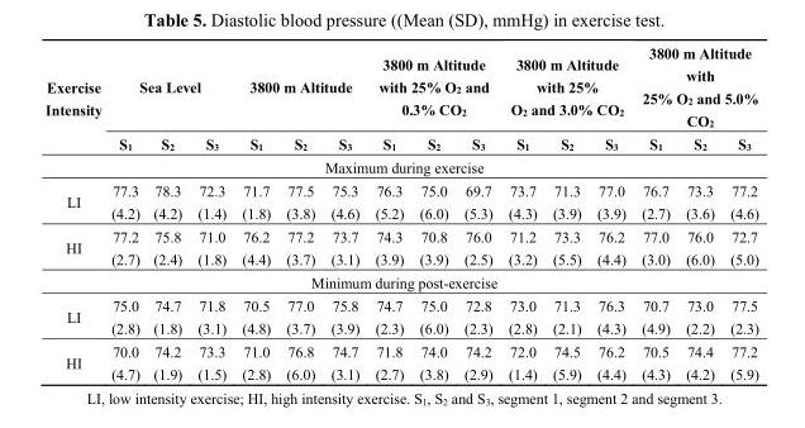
<table><thead><tr><td rowspan="2">Exercise Intensity</td><td colspan="3">Sea Level</td><td colspan="3">3800 m Altitude</td><td colspan="3">3800 m Altitude with 25% O<sub>2</sub> and 0.3% CO<sub>2</sub></td><td colspan="3">3800 m Altitude with 25% O<sub>2</sub> and 3.0% CO<sub>2</sub></td><td colspan="3">3800 m Altitude with 25% O<sub>2</sub> and 5.0% CO<sub>2</sub></td></tr><tr><td>S<sub>1</sub></td><td>S<sub>2</sub></td><td>S<sub>3</sub></td><td>S<sub>1</sub></td><td>S<sub>2</sub></td><td>S<sub>3</sub></td><td>S<sub>1</sub></td><td>S<sub>2</sub></td><td>S<sub>3</sub></td><td>S<sub>1</sub></td><td>S<sub>2</sub></td><td>S<sub>3</sub></td><td>S<sub>1</sub></td><td>S<sub>2</sub></td><td>S<sub>3</sub></td></tr></thead><tbody><tr><td colspan="16">Maximum during exercise</td></tr><tr><td>LI</td><td>77.3 (4.2)</td><td>78.3 (4.2)</td><td>72.3 (1.4)</td><td>71.7 (1.8)</td><td>77.5 (3.8)</td><td>75.3 (4.6)</td><td>76.3 (5.2)</td><td>75.0 (6.0)</td><td>69.7 (5.3)</td><td>73.7 (4.3)</td><td>71.3 (3.9)</td><td>77.0 (3.9)</td><td>76.7 (2.7)</td><td>73.3 (3.6)</td><td>77.2 (4.6)</td></tr><tr><td>HI</td><td>77.2 (2.7)</td><td>75.8 (2.4)</td><td>71.0 (1.8)</td><td>76.2 (4.4)</td><td>77.2 (3.7)</td><td>73.7 (3.1)</td><td>74.3 (3.9)</td><td>70.8 (3.9)</td><td>76.0 (2.5)</td><td>71.2 (3.2)</td><td>73.3 (5.5)</td><td>76.2 (4.4)</td><td>77.0 (3.0)</td><td>76.0 (6.0)</td><td>72.7 (5.0)</td></tr><tr><td colspan="16">Minimum during post-exercise</td></tr><tr><td>LI</td><td>75.0 (2.8)</td><td>74.7 (1.8)</td><td>71.8 (3.1)</td><td>70.5 (4.8)</td><td>77.0 (3.7)</td><td>75.8 (3.9)</td><td>74.7 (2.3)</td><td>75.0 (6.0)</td><td>72.8 (2.3)</td><td>73.0 (2.8)</td><td>71.3 (2.1)</td><td>76.3 (4.3)</td><td>70.7 (4.9)</td><td>73.0 (2.2)</td><td>77.5 (2.3)</td></tr><tr><td>HI</td><td>70.0 (4.7)</td><td>74.2 (1.9)</td><td>73.3 (1.5)</td><td>71.0 (2.8)</td><td>76.8 (6.0)</td><td>74.7 (3.1)</td><td>71.8 (2.7)</td><td>74.0 (3.8)</td><td>74.2 (2.9)</td><td>72.0 (1.4)</td><td>74.5 (5.9)</td><td>76.2 (4.4)</td><td>70.5 (4.3)</td><td>74.4 (4.2)</td><td>77.2 (5.9)</td></tr></tbody></table>